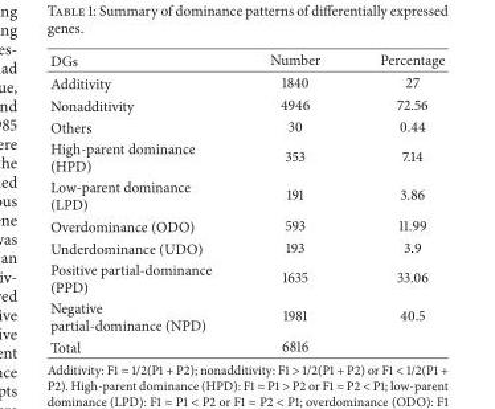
<table><thead><tr><td>DGs</td><td>Number</td><td>Percentage</td></tr></thead><tbody><tr><td>Additivity</td><td>1840</td><td>27</td></tr><tr><td>Nonadditivity</td><td>4946</td><td>72.56</td></tr><tr><td>Others</td><td>30</td><td>0.44</td></tr><tr><td>High-parent dominance (HPD)</td><td>353</td><td>7.14</td></tr><tr><td>Low-parent dominance (LPD)</td><td>191</td><td>3.86</td></tr><tr><td>Overdominance (ODO)</td><td>593</td><td>11.99</td></tr><tr><td>Underdominance (UDO)</td><td>193</td><td>3.9</td></tr><tr><td>Positive partial-dominance (PPD)</td><td>1635</td><td>33.06</td></tr><tr><td>Negative partial-dominance (NPD)</td><td>1981</td><td>40.5</td></tr><tr><td>Total</td><td>6816</td><td></td></tr></tbody></table>